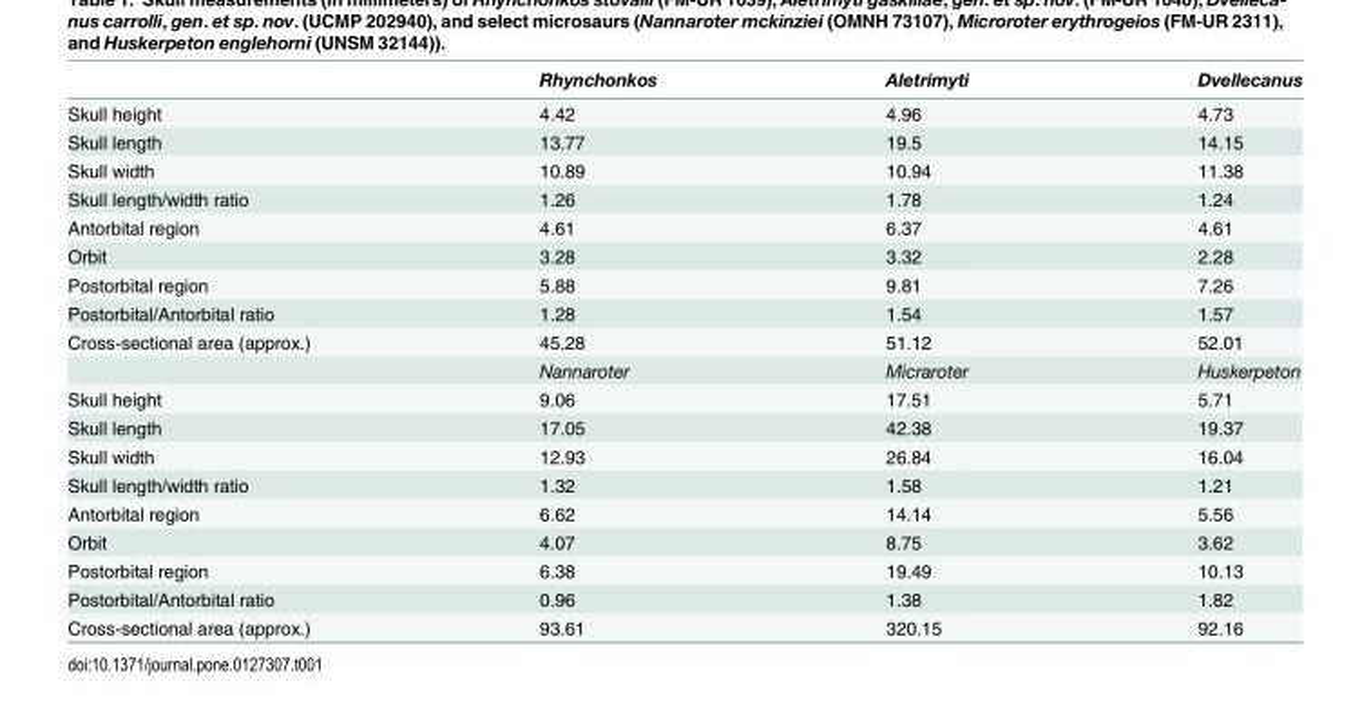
<table><thead><tr><td></td><td>Rhynchonkos</td><td>Aletrimyti</td><td>Dvellecanus</td></tr></thead><tbody><tr><td>Skull height</td><td>4.42</td><td>4.96</td><td>4.73</td></tr><tr><td>Skull length</td><td>13.77</td><td>19.5</td><td>14.15</td></tr><tr><td>Skull width</td><td>10.89</td><td>10.94</td><td>11.38</td></tr><tr><td>Skull length/width ratio</td><td>1.26</td><td>1.78</td><td>1.24</td></tr><tr><td>Antorbital region</td><td>4.61</td><td>6.37</td><td>4.61</td></tr><tr><td>Orbit</td><td>3.28</td><td>3.32</td><td>2.28</td></tr><tr><td>Postorbital region</td><td>5.88</td><td>9.81</td><td>7.26</td></tr><tr><td>Postorbital/Antorbital ratio</td><td>1.28</td><td>1.54</td><td>1.57</td></tr><tr><td rowspan="2">Cross-sectional area (approx.)</td><td>45.28</td><td>51.12</td><td>52.01</td></tr><tr><td>Nannaroter</td><td>Micraroter</td><td>Huskerpeton</td></tr><tr><td>Skull height</td><td>9.06</td><td>17.51</td><td>5.71</td></tr><tr><td>Skull length</td><td>17.05</td><td>42.38</td><td>19.37</td></tr><tr><td>Skull width</td><td>12.93</td><td>26.84</td><td>16.04</td></tr><tr><td>Skull length/width ratio</td><td>1.32</td><td>1.58</td><td>1.21</td></tr><tr><td>Antorbital region</td><td>6.62</td><td>14.14</td><td>5.56</td></tr><tr><td>Orbit</td><td>4.07</td><td>8.75</td><td>3.62</td></tr><tr><td>Postorbital region</td><td>6.38</td><td>19.49</td><td>10.13</td></tr><tr><td>Postorbital/Antorbital ratio</td><td>0.96</td><td>1.38</td><td>1.82</td></tr><tr><td>Cross-sectional area (approx.)</td><td>93.61</td><td>320.15</td><td>92.16</td></tr></tbody></table>